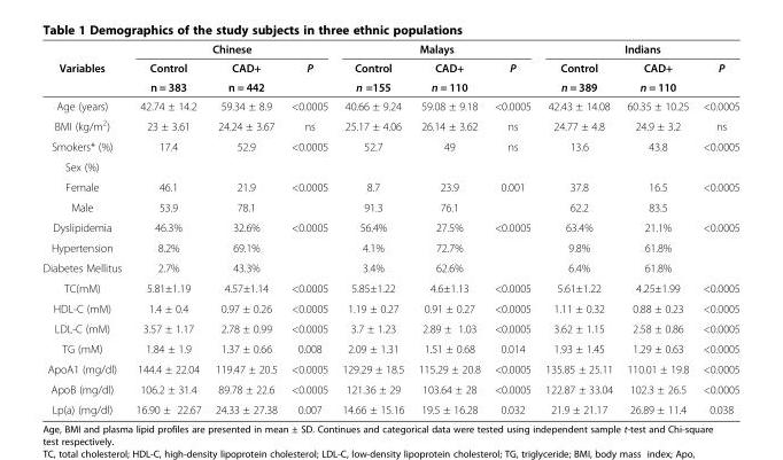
<table><thead><tr><td rowspan="3">Variables</td><td colspan="3">Chinese</td><td colspan="3">Malays</td><td colspan="3">Indians</td></tr><tr><td rowspan="2">Control n = 383</td><td rowspan="2">CAD+ n = 442</td><td rowspan="2">P</td><td rowspan="2">Control n =155</td><td rowspan="2">CAD+ n = 110</td><td rowspan="2">P</td><td rowspan="2">Control n = 389</td><td rowspan="2">CAD+ n = 110</td><td rowspan="2">P</td></tr><tr></tr></thead><tbody><tr><td>Age (years)</td><td>42.74 ± 14.2</td><td>59.34 ± 8.9</td><td>&lt;0.0005</td><td>40.66 ± 9.24</td><td>59.08 ± 9.18</td><td>&lt;0.0005</td><td>42.43 ± 14.08</td><td>60.35 ± 10.25</td><td>&lt;0.0005</td></tr><tr><td>BMI (kg/m<sup>2</sup>)</td><td>23 ± 3.61</td><td>24.24 ± 3.67</td><td>ns</td><td>25.17 ± 4.06</td><td>26.14 ± 3.62</td><td>ns</td><td>24.77 ± 4.8</td><td>24.9 ± 3.2</td><td>ns</td></tr><tr><td>Smokers* (%)</td><td>17.4</td><td>52.9</td><td>&lt;0.0005</td><td>52.7</td><td>49</td><td>ns</td><td>13.6</td><td>43.8</td><td>&lt;0.0005</td></tr><tr><td colspan="10">Sex (%)</td></tr><tr><td>Female</td><td>46.1</td><td>21.9</td><td>&lt;0.0005</td><td>8.7</td><td>23.9</td><td>0.001</td><td>37.8</td><td>16.5</td><td rowspan="2">&lt;0.0005</td></tr><tr><td>Male</td><td>53.9</td><td>78.1</td><td></td><td>91.3</td><td>76.1</td><td></td><td>62.2</td><td>83.5</td></tr><tr><td>Dyslipidemia</td><td>46.3%</td><td>32.6%</td><td>&lt;0.0005</td><td>56.4%</td><td>27.5%</td><td>&lt;0.0005</td><td>63.4%</td><td>21.1%</td><td rowspan="3">&lt;0.0005</td></tr><tr><td>Hypertension</td><td>8.2%</td><td>69.1%</td><td></td><td>4.1%</td><td>72.7%</td><td></td><td>9.8%</td><td>61.8%</td></tr><tr><td>Diabetes Mellitus</td><td>2.7%</td><td>43.3%</td><td></td><td>3.4%</td><td>62.6%</td><td></td><td>6.4%</td><td>61.8%</td></tr><tr><td>TC(mM)</td><td>5.81±1.19</td><td>4.57±1.14</td><td>&lt;0.0005</td><td>5.85±1.22</td><td>4.6±1.13</td><td>&lt;0.0005</td><td>5.61±1.22</td><td>4.25±1.99</td><td>&lt;0.0005</td></tr><tr><td>HDL-C (mM)</td><td>1.4 ± 0.4</td><td>0.97 ± 0.26</td><td>&lt;0.0005</td><td>1.19 ± 0.27</td><td>0.91 ± 0.27</td><td>&lt;0.0005</td><td>1.11 ± 0.32</td><td>0.88 ± 0.23</td><td>&lt;0.0005</td></tr><tr><td>LDL-C (mM)</td><td>3.57 ± 1.17</td><td>2.78 ± 0.99</td><td>&lt;0.0005</td><td>3.7 ± 1.23</td><td>2.89 ± 1.03</td><td>&lt;0.0005</td><td>3.62 ± 1.15</td><td>2.58 ± 0.86</td><td>&lt;0.0005</td></tr><tr><td>TG (mM)</td><td>1.84 ± 1.9</td><td>1.37 ± 0.66</td><td>0.008</td><td>2.09 ± 1.31</td><td>1.51 ± 0.68</td><td>0.014</td><td>1.93 ± 1.45</td><td>1.29 ± 0.63</td><td>&lt;0.0005</td></tr><tr><td>ApoA1 (mg/dl)</td><td>144.4 ± 22.04</td><td>119.47 ± 20.5</td><td>&lt;0.0005</td><td>129.29 ± 18.5</td><td>115.29 ± 20.8</td><td>&lt;0.0005</td><td>135.85 ± 25.11</td><td>110.01 ± 19.8</td><td>&lt;0.0005</td></tr><tr><td>ApoB (mg/dl)</td><td>106.2 ± 31.4</td><td>89.78 ± 22.6</td><td>&lt;0.0005</td><td>121.36 ± 29</td><td>103.64 ± 28</td><td>&lt;0.0005</td><td>122.87 ± 33.04</td><td>102.3 ± 26.5</td><td>&lt;0.0005</td></tr><tr><td>Lp(a) (mg/dl)</td><td>16.90 ± 22.67</td><td>24.33 ± 27.38</td><td>0.007</td><td>14.66 ± 15.16</td><td>19.5 ± 16.28</td><td>0.032</td><td>21.9 ± 21.17</td><td>26.89 ± 11.4</td><td>0.038</td></tr></tbody></table>